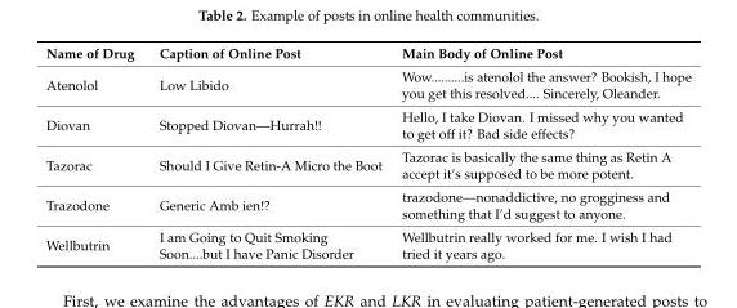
<table><thead><tr><td>Name of Drug</td><td>Caption of Online Post</td><td>Main Body of Online Post</td></tr></thead><tbody><tr><td>Atenolol</td><td>Low Libido</td><td>Wow..........is atenolol the answer? Bookish, I hope you get this resolved.... Sincerely, Oleander.</td></tr><tr><td>Diovan</td><td>Stopped Diovan—Hurrah!!</td><td>Hello, I take Diovan. I missed why you wanted to get off it? Bad side effects?</td></tr><tr><td>Tazorac</td><td>Should I Give Retin-A Micro the Boot</td><td>Tazorac is basically the same thing as Retin A accept it’s supposed to be more potent.</td></tr><tr><td>Trazodone</td><td>Generic Amb ien!?</td><td>trazodone—nonaddictive, no grogginess and something that I’d suggest to anyone.</td></tr><tr><td>Wellbutrin</td><td>I am Going to Quit Smoking Soon....but I have Panic Disorder</td><td>Wellbutrin really worked for me. I wish I had tried it years ago.</td></tr></tbody></table>